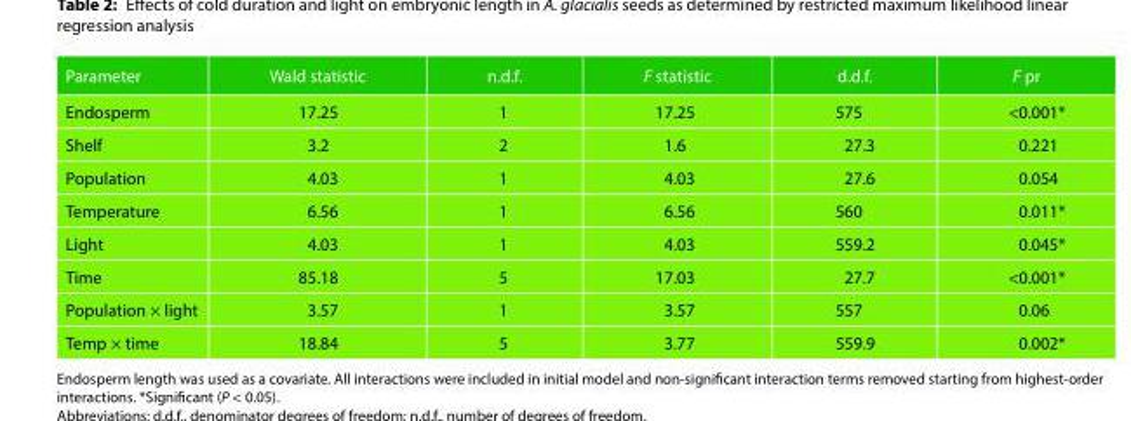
<table><thead><tr><td>Parameter</td><td>Wald statistic</td><td>n.d.f.</td><td>F statistic</td><td>d.d.f.</td><td>F pr</td></tr></thead><tbody><tr><td>Endosperm</td><td>17.25</td><td>1</td><td>17.25</td><td>575</td><td>&lt;0.001*</td></tr><tr><td>Shelf</td><td>3.2</td><td>2</td><td>1.6</td><td>27.3</td><td>0.221</td></tr><tr><td>Population</td><td>4.03</td><td>1</td><td>4.03</td><td>27.6</td><td>0.054</td></tr><tr><td>Temperature</td><td>6.56</td><td>1</td><td>6.56</td><td>560</td><td>0.011*</td></tr><tr><td>Light</td><td>4.03</td><td>1</td><td>4.03</td><td>559.2</td><td>0.045*</td></tr><tr><td>Time</td><td>85.18</td><td>5</td><td>17.03</td><td>27.7</td><td>&lt;0.001*</td></tr><tr><td>Population × light</td><td>3.57</td><td>1</td><td>3.57</td><td>557</td><td>0.06</td></tr><tr><td>Temp × time</td><td>18.84</td><td>5</td><td>3.77</td><td>559.9</td><td>0.002*</td></tr></tbody></table>